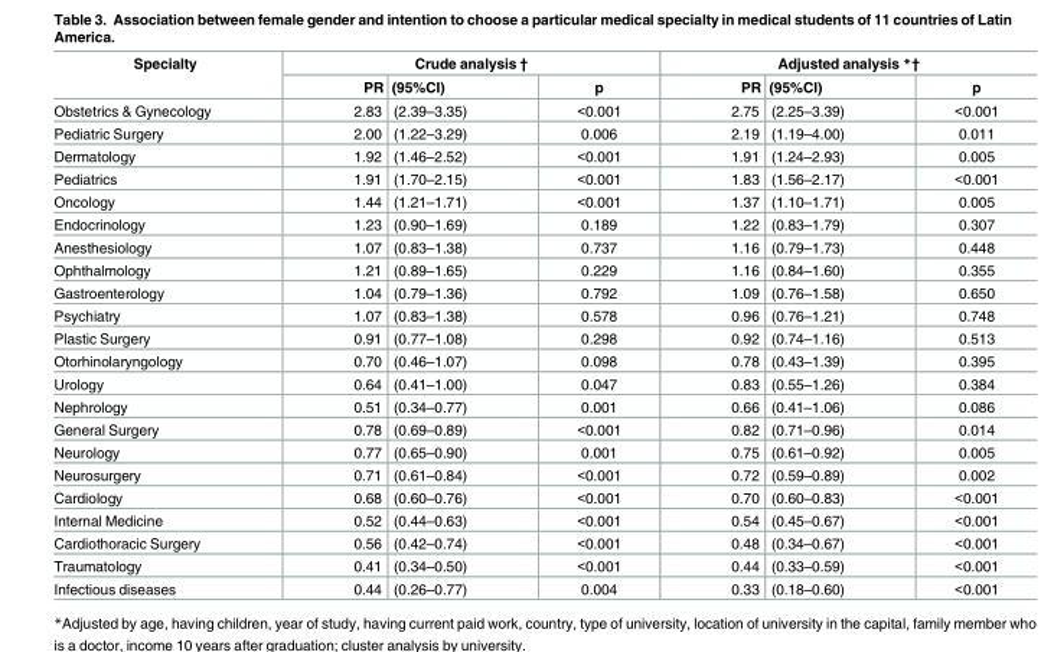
<table><thead><tr><td rowspan="2">Specialty</td><td colspan="3">Crude analysis †</td><td colspan="3">Adjusted analysis *†</td></tr><tr><td>PR</td><td>(95%CI)</td><td>p</td><td>PR</td><td>(95%CI)</td><td>p</td></tr></thead><tbody><tr><td>Obstetrics &amp; Gynecology</td><td>2.83</td><td>(2.39–3.35)</td><td>&lt;0.001</td><td>2.75</td><td>(2.25–3.39)</td><td>&lt;0.001</td></tr><tr><td>Pediatric Surgery</td><td>2.00</td><td>(1.22–3.29)</td><td>0.006</td><td>2.19</td><td>(1.19–4.00)</td><td>0.011</td></tr><tr><td>Dermatology</td><td>1.92</td><td>(1.46–2.52)</td><td>&lt;0.001</td><td>1.91</td><td>(1.24–2.93)</td><td>0.005</td></tr><tr><td>Pediatrics</td><td>1.91</td><td>(1.70–2.15)</td><td>&lt;0.001</td><td>1.83</td><td>(1.56–2.17)</td><td>&lt;0.001</td></tr><tr><td>Oncology</td><td>1.44</td><td>(1.21–1.71)</td><td>&lt;0.001</td><td>1.37</td><td>(1.10–1.71)</td><td>0.005</td></tr><tr><td>Endocrinology</td><td>1.23</td><td>(0.90–1.69)</td><td>0.189</td><td>1.22</td><td>(0.83–1.79)</td><td>0.307</td></tr><tr><td>Anesthesiology</td><td>1.07</td><td>(0.83–1.38)</td><td>0.737</td><td>1.16</td><td>(0.79–1.73)</td><td>0.448</td></tr><tr><td>Ophthalmology</td><td>1.21</td><td>(0.89–1.65)</td><td>0.229</td><td>1.16</td><td>(0.84–1.60)</td><td>0.355</td></tr><tr><td>Gastroenterology</td><td>1.04</td><td>(0.79–1.36)</td><td>0.792</td><td>1.09</td><td>(0.76–1.58)</td><td>0.650</td></tr><tr><td>Psychiatry</td><td>1.07</td><td>(0.83–1.38)</td><td>0.578</td><td>0.96</td><td>(0.76–1.21)</td><td>0.748</td></tr><tr><td>Plastic Surgery</td><td>0.91</td><td>(0.77–1.08)</td><td>0.298</td><td>0.92</td><td>(0.74–1.16)</td><td>0.513</td></tr><tr><td>Otorhinolaryngology</td><td>0.70</td><td>(0.46–1.07)</td><td>0.098</td><td>0.78</td><td>(0.43–1.39)</td><td>0.395</td></tr><tr><td>Urology</td><td>0.64</td><td>(0.41–1.00)</td><td>0.047</td><td>0.83</td><td>(0.55–1.26)</td><td>0.384</td></tr><tr><td>Nephrology</td><td>0.51</td><td>(0.34–0.77)</td><td>0.001</td><td>0.66</td><td>(0.41–1.06)</td><td>0.086</td></tr><tr><td>General Surgery</td><td>0.78</td><td>(0.69–0.89)</td><td>&lt;0.001</td><td>0.82</td><td>(0.71–0.96)</td><td>0.014</td></tr><tr><td>Neurology</td><td>0.77</td><td>(0.65–0.90)</td><td>0.001</td><td>0.75</td><td>(0.61–0.92)</td><td>0.005</td></tr><tr><td>Neurosurgery</td><td>0.71</td><td>(0.61–0.84)</td><td>&lt;0.001</td><td>0.72</td><td>(0.59–0.89)</td><td>0.002</td></tr><tr><td>Cardiology</td><td>0.68</td><td>(0.60–0.76)</td><td>&lt;0.001</td><td>0.70</td><td>(0.60–0.83)</td><td>&lt;0.001</td></tr><tr><td>Internal Medicine</td><td>0.52</td><td>(0.44–0.63)</td><td>&lt;0.001</td><td>0.54</td><td>(0.45–0.67)</td><td>&lt;0.001</td></tr><tr><td>Cardiothoracic Surgery</td><td>0.56</td><td>(0.42–0.74)</td><td>&lt;0.001</td><td>0.48</td><td>(0.34–0.67)</td><td>&lt;0.001</td></tr><tr><td>Traumatology</td><td>0.41</td><td>(0.34–0.50)</td><td>&lt;0.001</td><td>0.44</td><td>(0.33–0.59)</td><td>&lt;0.001</td></tr><tr><td>Infectious diseases</td><td>0.44</td><td>(0.26–0.77)</td><td>0.004</td><td>0.33</td><td>(0.18–0.60)</td><td>&lt;0.001</td></tr></tbody></table>